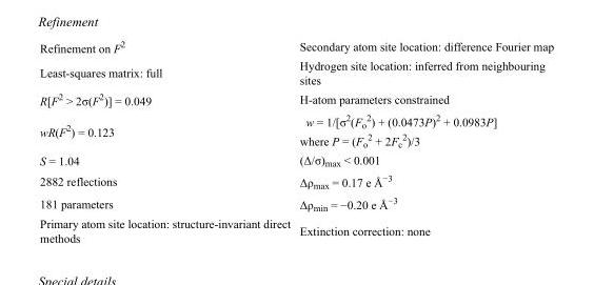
<table><tbody><tr><td>Refinement on F<sup>2</sup></td><td>Secondary atom site location: difference Fourier map</td></tr><tr><td>Least-squares matrix: full</td><td>Hydrogen site location: inferred from neighbouring sites</td></tr><tr><td>R[F<sup>2</sup> &gt; 2σ(F<sup>2</sup>)] = 0.049</td><td>H-atom parameters constrained</td></tr><tr><td>wR(F<sup>2</sup>) = 0.123</td><td>w = 1/[σ<sup>2</sup>(F<sub>o</sub> <sup>2</sup>) + (0.0473P)<sup>2</sup> + 0.0983P] where P = (F<sub>o</sub> <sup>2</sup> + 2F<sub>c</sub> <sup>2</sup>)/3</td></tr><tr><td>S = 1.04</td><td>(Δ/σ)<sub>max</sub> &lt; 0.001</td></tr><tr><td>2882 reflections</td><td>Δρ<sub>max</sub> = 0.17 e Å<sup>−3</sup></td></tr><tr><td>181 parameters</td><td>Δρ<sub>min</sub> = −0.20 e Å<sup>−3</sup></td></tr><tr><td>Primary atom site location: structure-invariant direct methods</td><td>Extinction correction: none</td></tr></tbody></table>